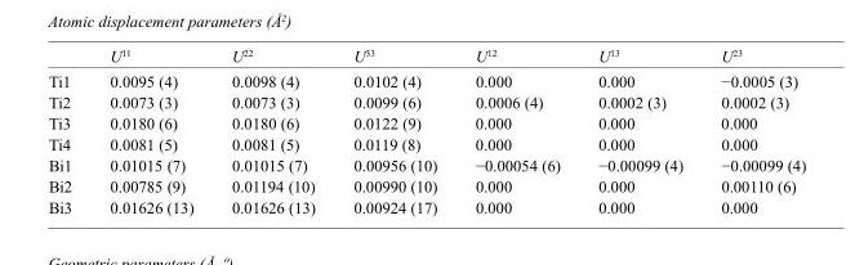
<table><thead><tr><td></td><td>U<sup>11</sup></td><td>U<sup>22</sup></td><td>U<sup>33</sup></td><td>U<sup>12</sup></td><td>U<sup>13</sup></td><td>U<sup>23</sup></td></tr></thead><tbody><tr><td>Ti1</td><td>0.0095 (4)</td><td>0.0098 (4)</td><td>0.0102 (4)</td><td>0.000</td><td>0.000</td><td>−0.0005 (3)</td></tr><tr><td>Ti2</td><td>0.0073 (3)</td><td>0.0073 (3)</td><td>0.0099 (6)</td><td>0.0006 (4)</td><td>0.0002 (3)</td><td>0.0002 (3)</td></tr><tr><td>Ti3</td><td>0.0180 (6)</td><td>0.0180 (6)</td><td>0.0122 (9)</td><td>0.000</td><td>0.000</td><td>0.000</td></tr><tr><td>Ti4</td><td>0.0081 (5)</td><td>0.0081 (5)</td><td>0.0119 (8)</td><td>0.000</td><td>0.000</td><td>0.000</td></tr><tr><td>Bi1</td><td>0.01015 (7)</td><td>0.01015 (7)</td><td>0.00956 (10)</td><td>−0.00054 (6)</td><td>−0.00099 (4)</td><td>−0.00099 (4)</td></tr><tr><td>Bi2</td><td>0.00785 (9)</td><td>0.01194 (10)</td><td>0.00990 (10)</td><td>0.000</td><td>0.000</td><td>0.00110 (6)</td></tr><tr><td>Bi3</td><td>0.01626 (13)</td><td>0.01626 (13)</td><td>0.00924 (17)</td><td>0.000</td><td>0.000</td><td>0.000</td></tr></tbody></table>